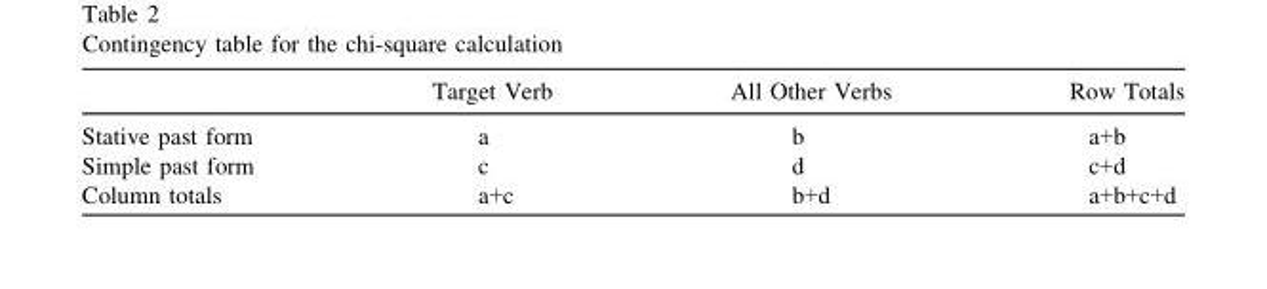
<table><thead><tr><td></td><td>Target Verb</td><td>All Other Verbs</td><td>Row Totals</td></tr></thead><tbody><tr><td>Stative past form</td><td>a</td><td>b</td><td>a+b</td></tr><tr><td>Simple past form</td><td>c</td><td>d</td><td>c+d</td></tr><tr><td>Column totals</td><td>a+c</td><td>b+d</td><td>a+b+c+d</td></tr></tbody></table>